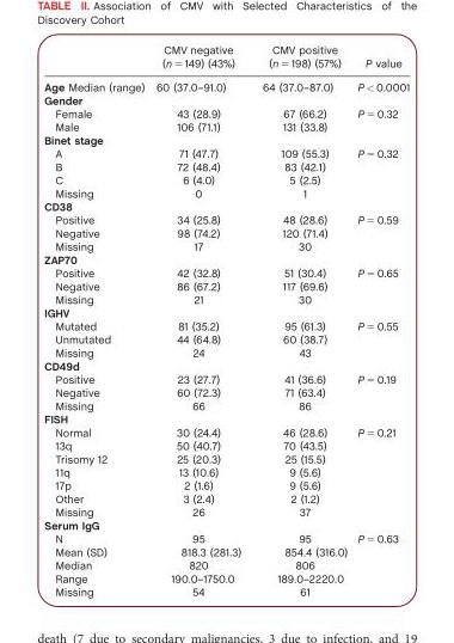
<table><thead><tr><td></td><td>CMV negative (n = 149) (43%)</td><td>CMV positive (n = 198) (57%)</td><td>P value</td></tr></thead><tbody><tr><td>Age Median (range)</td><td>60 (37.0–91.0)</td><td>64 (37.0–87.0)</td><td>P &lt; 0.0001</td></tr><tr><td colspan="4">Gender</td></tr><tr><td>Female</td><td>43 (28.9)</td><td>67 (66.2)</td><td rowspan="2">P = 0.32</td></tr><tr><td>Male</td><td>106 (71.1)</td><td>131 (33.8)</td></tr><tr><td colspan="4">Binet stage</td></tr><tr><td>A</td><td>71 (47.7)</td><td>109 (55.3)</td><td rowspan="4">P = 0.32</td></tr><tr><td>B</td><td>72 (48.4)</td><td>83 (42.1)</td></tr><tr><td>C</td><td>6 (4.0)</td><td>5 (2.5)</td></tr><tr><td>Missing</td><td>0</td><td>1</td></tr><tr><td colspan="4">CD38</td></tr><tr><td>Positive</td><td>34 (25.8)</td><td>48 (28.6)</td><td rowspan="3">P = 0.59</td></tr><tr><td>Negative</td><td>98 (74.2)</td><td>120 (71.4)</td></tr><tr><td>Missing</td><td>17</td><td>30</td></tr><tr><td colspan="4">ZAP70</td></tr><tr><td>Positive</td><td>42 (32.8)</td><td>51 (30.4)</td><td rowspan="3">P = 0.65</td></tr><tr><td>Negative</td><td>86 (67.2)</td><td>117 (69.6)</td></tr><tr><td>Missing</td><td>21</td><td>30</td></tr><tr><td colspan="4">IGHV</td></tr><tr><td>Mutated</td><td>81 (35.2)</td><td>95 (61.3)</td><td rowspan="3">P = 0.55</td></tr><tr><td>Unmutated</td><td>44 (64.8)</td><td>60 (38.7)</td></tr><tr><td>Missing</td><td>24</td><td>43</td></tr><tr><td colspan="4">CD49d</td></tr><tr><td>Positive</td><td>23 (27.7)</td><td>41 (36.6)</td><td rowspan="3">P = 0.19</td></tr><tr><td>Negative</td><td>60 (72.3)</td><td>71 (63.4)</td></tr><tr><td>Missing</td><td>66</td><td>86</td></tr><tr><td colspan="4">FISH</td></tr><tr><td>Normal</td><td>30 (24.4)</td><td>46 (28.6)</td><td rowspan="7">P = 0.21</td></tr><tr><td>13q</td><td>50 (40.7)</td><td>70 (43.5)</td></tr><tr><td>Trisomy 12</td><td>25 (20.3)</td><td>25 (15.5)</td></tr><tr><td>11q</td><td>13 (10.6)</td><td>9 (5.6)</td></tr><tr><td>17p</td><td>2 (1.6)</td><td>9 (5.6)</td></tr><tr><td>Other</td><td>3 (2.4)</td><td>2 (1.2)</td></tr><tr><td>Missing</td><td>26</td><td>37</td></tr><tr><td colspan="4">Serum IgG</td></tr><tr><td>N</td><td>95</td><td>95</td><td rowspan="5">P = 0.63</td></tr><tr><td>Mean (SD)</td><td>818.3 (281.3)</td><td>854.4 (316.0)</td></tr><tr><td>Median</td><td>820</td><td>806</td></tr><tr><td>Range</td><td>190.0–1750.0</td><td>189.0–2220.0</td></tr><tr><td>Missing</td><td>54</td><td>61</td></tr></tbody></table>